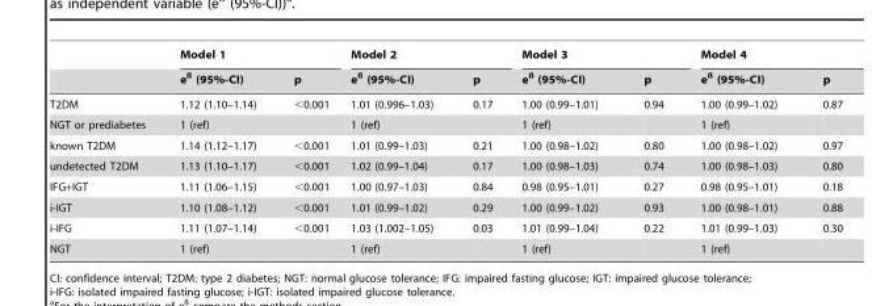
<table><thead><tr><td rowspan="2"></td><td colspan="2">Model 1</td><td colspan="2">Model 2</td><td colspan="2">Model 3</td><td colspan="2">Model 4</td></tr><tr><td>e<sup>ß</sup> (95%-CI)</td><td>p</td><td>e<sup>ß</sup> (95%-CI)</td><td>p</td><td>e<sup>ß</sup> (95%-CI)</td><td>p</td><td>e<sup>ß</sup> (95%-CI)</td><td>p</td></tr></thead><tbody><tr><td>T2DM</td><td>1.12 (1.10–1.14)</td><td>&lt;0.001</td><td>1.01 (0.996–1.03)</td><td>0.17</td><td>1.00 (0.99–1.01)</td><td>0.94</td><td>1.00 (0.99–1.02)</td><td>0.87</td></tr><tr><td>NGT or prediabetes</td><td>1 (ref)</td><td></td><td>1 (ref)</td><td></td><td>1 (ref)</td><td></td><td>1 (ref)</td><td></td></tr><tr><td>known T2DM</td><td>1.14 (1.12–1.17)</td><td>&lt;0.001</td><td>1.01 (0.99–1.03)</td><td>0.21</td><td>1.00 (0.98–1.02)</td><td>0.80</td><td>1.00 (0.98–1.02)</td><td>0.97</td></tr><tr><td>undetected T2DM</td><td>1.13 (1.10–1.17)</td><td>&lt;0.001</td><td>1.02 (0.99–1.04)</td><td>0.17</td><td>1.00 (0.98–1.03)</td><td>0.74</td><td>1.00 (0.98–1.03)</td><td>0.80</td></tr><tr><td>IFG+IGT</td><td>1.11 (1.06–1.15)</td><td>&lt;0.001</td><td>1.00 (0.97–1.03)</td><td>0.84</td><td>0.98 (0.95–1.01)</td><td>0.27</td><td>0.98 (0.95–1.01)</td><td>0.18</td></tr><tr><td>i-IGT</td><td>1.10 (1.08–1.12)</td><td>&lt;0.001</td><td>1.01 (0.99–1.02)</td><td>0.29</td><td>1.00 (0.99–1.02)</td><td>0.93</td><td>1.00 (0.98–1.01)</td><td>0.88</td></tr><tr><td>i-IFG</td><td>1.11 (1.07–1.14)</td><td>&lt;0.001</td><td>1.03 (1.002–1.05)</td><td>0.03</td><td>1.01 (0.99–1.04)</td><td>0.22</td><td>1.01 (0.99–1.03)</td><td>0.30</td></tr><tr><td>NGT</td><td>1 (ref)</td><td></td><td>1 (ref)</td><td></td><td>1 (ref)</td><td></td><td>1 (ref)</td><td></td></tr></tbody></table>